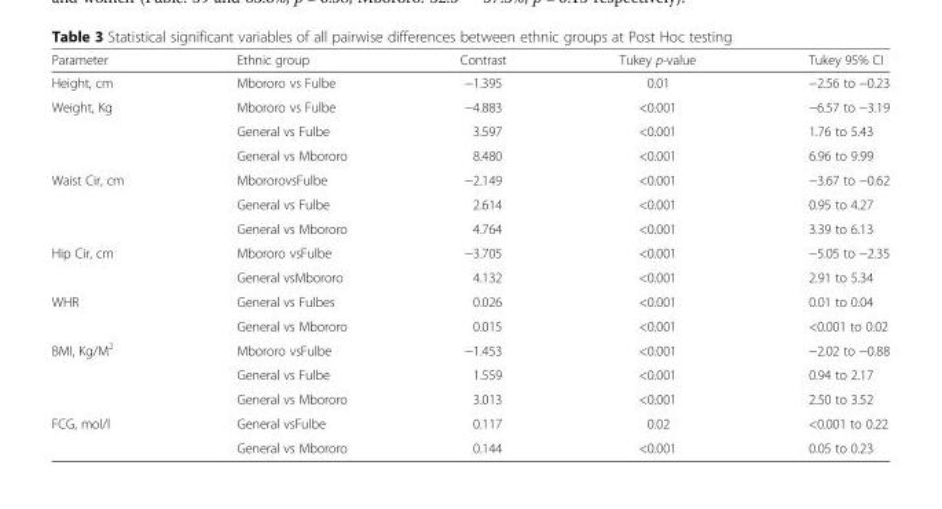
<table><thead><tr><td>Parameter</td><td>Ethnic group</td><td>Contrast</td><td>Tukey p-value</td><td>Tukey 95% CI</td></tr></thead><tbody><tr><td>Height, cm</td><td>Mbororo vs Fulbe</td><td>−1.395</td><td>0.01</td><td>−2.56 to −0.23</td></tr><tr><td rowspan="3">Weight, Kg</td><td>Mbororo vs Fulbe</td><td>−4.883</td><td>&lt;0.001</td><td>−6.57 to −3.19</td></tr><tr><td>General vs Fulbe</td><td>3.597</td><td>&lt;0.001</td><td>1.76 to 5.43</td></tr><tr><td>General vs Mbororo</td><td>8.480</td><td>&lt;0.001</td><td>6.96 to 9.99</td></tr><tr><td rowspan="3">Waist Cir, cm</td><td>MbororovsFulbe</td><td>−2.149</td><td>&lt;0.001</td><td>−3.67 to −0.62</td></tr><tr><td>General vs Fulbe</td><td>2.614</td><td>&lt;0.001</td><td>0.95 to 4.27</td></tr><tr><td>General vs Mbororo</td><td>4.764</td><td>&lt;0.001</td><td>3.39 to 6.13</td></tr><tr><td rowspan="2">Hip Cir, cm</td><td>Mbororo vsFulbe</td><td>−3.705</td><td>&lt;0.001</td><td>−5.05 to −2.35</td></tr><tr><td>General vsMbororo</td><td>4.132</td><td>&lt;0.001</td><td>2.91 to 5.34</td></tr><tr><td rowspan="2">WHR</td><td>General vs Fulbes</td><td>0.026</td><td>&lt;0.001</td><td>0.01 to 0.04</td></tr><tr><td>General vs Mbororo</td><td>0.015</td><td>&lt;0.001</td><td>&lt;0.001 to 0.02</td></tr><tr><td rowspan="3">BMI, Kg/M<sup>2</sup></td><td>Mbororo vsFulbe</td><td>−1.453</td><td>&lt;0.001</td><td>−2.02 to −0.88</td></tr><tr><td>General vs Fulbe</td><td>1.559</td><td>&lt;0.001</td><td>0.94 to 2.17</td></tr><tr><td>General vs Mbororo</td><td>3.013</td><td>&lt;0.001</td><td>2.50 to 3.52</td></tr><tr><td rowspan="2">FCG, mol/l</td><td>General vsFulbe</td><td>0.117</td><td>0.02</td><td>&lt;0.001 to 0.22</td></tr><tr><td>General vs Mbororo</td><td>0.144</td><td>&lt;0.001</td><td>0.05 to 0.23</td></tr></tbody></table>